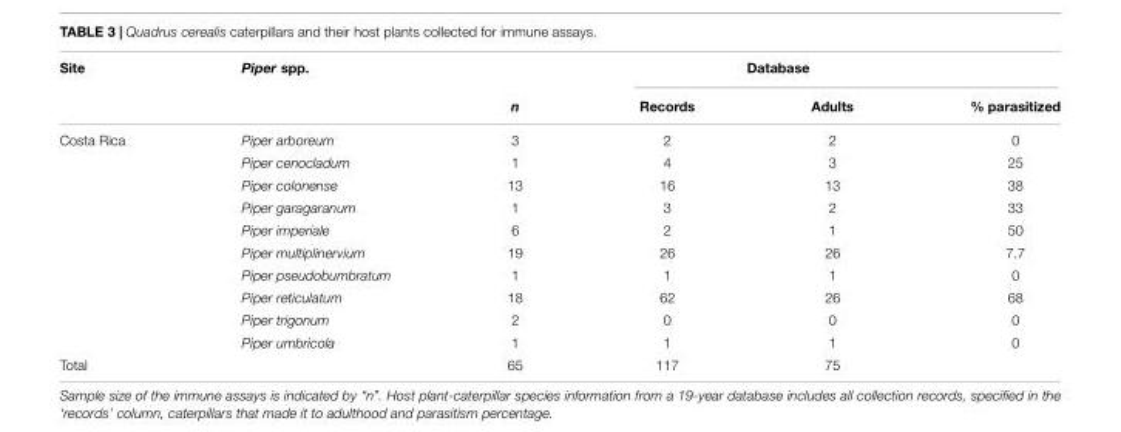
<table><thead><tr><td rowspan="2">Site</td><td rowspan="2">Piper spp.</td><td rowspan="2">n</td><td colspan="3">Database</td></tr><tr><td>Records</td><td>Adults</td><td>% parasitized</td></tr></thead><tbody><tr><td rowspan="10">Costa Rica</td><td>Piper arboreum</td><td>3</td><td>2</td><td>2</td><td>0</td></tr><tr><td>Piper cenocladum</td><td>1</td><td>4</td><td>3</td><td>25</td></tr><tr><td>Piper colonense</td><td>13</td><td>16</td><td>13</td><td>38</td></tr><tr><td>Piper garagaranum</td><td>1</td><td>3</td><td>2</td><td>33</td></tr><tr><td>Piper imperiale</td><td>6</td><td>2</td><td>1</td><td>50</td></tr><tr><td>Piper multiplinervium</td><td>19</td><td>26</td><td>26</td><td>7.7</td></tr><tr><td>Piper pseudobumbratum</td><td>1</td><td>1</td><td>1</td><td>0</td></tr><tr><td>Piper reticulatum</td><td>18</td><td>62</td><td>26</td><td>68</td></tr><tr><td>Piper trigonum</td><td>2</td><td>0</td><td>0</td><td>0</td></tr><tr><td>Piper umbricola</td><td>1</td><td>1</td><td>1</td><td>0</td></tr><tr><td>Total</td><td></td><td>65</td><td>117</td><td>75</td><td></td></tr></tbody></table>